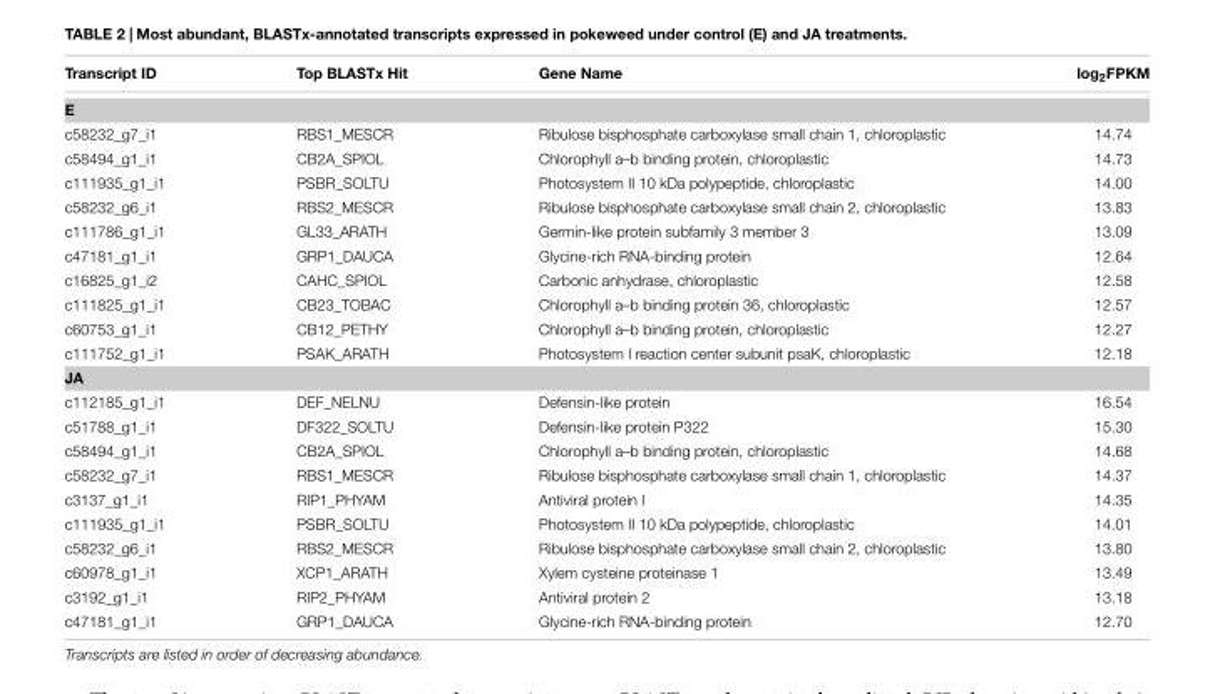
<table><thead><tr><td>Transcript ID</td><td>Top BLASTx Hit</td><td>Gene Name</td><td>log<sub>2</sub>FPKM</td></tr></thead><tbody><tr><td colspan="4">E</td></tr><tr><td>c58232_g7_i1</td><td>RBS1_MESCR</td><td>Ribulose bisphosphate carboxylase small chain 1, chloroplastic</td><td>14.74</td></tr><tr><td>c58494_g1_i1</td><td>CB2A_SPIOL</td><td>Chlorophyll a–b binding protein, chloroplastic</td><td>14.73</td></tr><tr><td>c111935_g1_i1</td><td>PSBR_SOLTU</td><td>Photosystem II 10 kDa polypeptide, chloroplastic</td><td>14.00</td></tr><tr><td>c58232_g6_i1</td><td>RBS2_MESCR</td><td>Ribulose bisphosphate carboxylase small chain 2, chloroplastic</td><td>13.83</td></tr><tr><td>c111786_g1_i1</td><td>GL33_ARATH</td><td>Germin-like protein subfamily 3 member 3</td><td>13.09</td></tr><tr><td>c47181_g1_i1</td><td>GRP1_DAUCA</td><td>Glycine-rich RNA-binding protein</td><td>12.64</td></tr><tr><td>c16825_g1_i2</td><td>CAHC_SPIOL</td><td>Carbonic anhydrase, chloroplastic</td><td>12.58</td></tr><tr><td>c111825_g1_i1</td><td>CB23_TOBAC</td><td>Chlorophyll a–b binding protein 36, chloroplastic</td><td>12.57</td></tr><tr><td>c60753_g1_i1</td><td>CB12_PETHY</td><td>Chlorophyll a–b binding protein, chloroplastic</td><td>12.27</td></tr><tr><td>c111752_g1_i1</td><td>PSAK_ARATH</td><td>Photosystem I reaction center subunit psaK, chloroplastic</td><td>12.18</td></tr><tr><td colspan="4">JA</td></tr><tr><td>c112185_g1_i1</td><td>DEF_NELNU</td><td>Defensin-like protein</td><td>16.54</td></tr><tr><td>c51788_g1_i1</td><td>DF322_SOLTU</td><td>Defensin-like protein P322</td><td>15.30</td></tr><tr><td>c58494_g1_i1</td><td>CB2A_SPIOL</td><td>Chlorophyll a–b binding protein, chloroplastic</td><td>14.68</td></tr><tr><td>c58232_g7_i1</td><td>RBS1_MESCR</td><td>Ribulose bisphosphate carboxylase small chain 1, chloroplastic</td><td>14.37</td></tr><tr><td>c3137_g1_i1</td><td>RIP1_PHYAM</td><td>Antiviral protein I</td><td>14.35</td></tr><tr><td>c111935_g1_i1</td><td>PSBR_SOLTU</td><td>Photosystem II 10 kDa polypeptide, chloroplastic</td><td>14.01</td></tr><tr><td>c58232_g6_i1</td><td>RBS2_MESCR</td><td>Ribulose bisphosphate carboxylase small chain 2, chloroplastic</td><td>13.80</td></tr><tr><td>c60978_g1_i1</td><td>XCP1_ARATH</td><td>Xylem cysteine proteinase 1</td><td>13.49</td></tr><tr><td>c3192_g1_i1</td><td>RIP2_PHYAM</td><td>Antiviral protein 2</td><td>13.18</td></tr><tr><td>c47181_g1_i1</td><td>GRP1_DAUCA</td><td>Glycine-rich RNA-binding protein</td><td>12.70</td></tr></tbody></table>